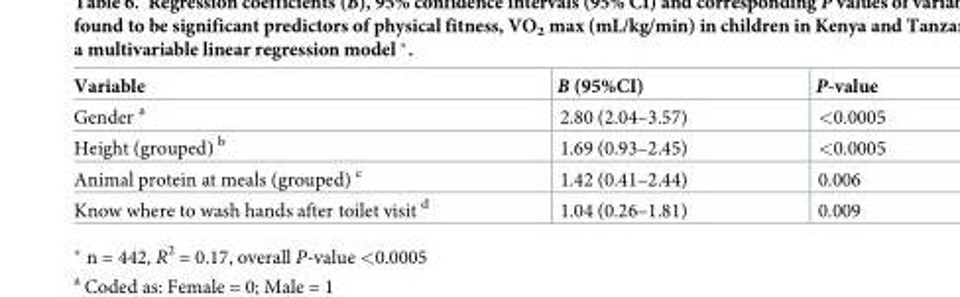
<table><thead><tr><td>Variable</td><td>B (95%CI)</td><td>P-value</td></tr></thead><tbody><tr><td>Gender <sup>a</sup></td><td>2.80 (2.04–3.57)</td><td>&lt;0.0005</td></tr><tr><td>Height (grouped) <sup>b</sup></td><td>1.69 (0.93–2.45)</td><td>&lt;0.0005</td></tr><tr><td>Animal protein at meals (grouped) <sup>c</sup></td><td>1.42 (0.41–2.44)</td><td>0.006</td></tr><tr><td>Know where to wash hands after toilet visit <sup>d</sup></td><td>1.04 (0.26–1.81)</td><td>0.009</td></tr></tbody></table>